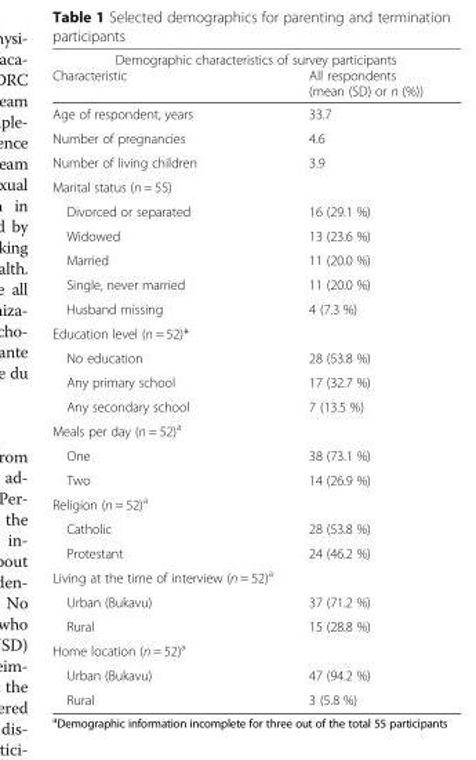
<table><thead><tr><td colspan="2">Demographic characteristics of survey participants</td></tr><tr><td>Characteristic</td><td>All respondents (mean (SD) or n (%))</td></tr></thead><tbody><tr><td>Age of respondent, years</td><td>33.7</td></tr><tr><td>Number of pregnancies</td><td>4.6</td></tr><tr><td>Number of living children</td><td>3.9</td></tr><tr><td colspan="2">Marital status (n = 55)</td></tr><tr><td>Divorced or separated</td><td>16 (29.1 %)</td></tr><tr><td>Widowed</td><td>13 (23.6 %)</td></tr><tr><td>Married</td><td>11 (20.0 %)</td></tr><tr><td>Single, never married</td><td>11 (20.0 %)</td></tr><tr><td>Husband missing</td><td>4 (7.3 %)</td></tr><tr><td colspan="2">Education level (n = 52)*</td></tr><tr><td>No education</td><td>28 (53.8 %)</td></tr><tr><td>Any primary school</td><td>17 (32.7 %)</td></tr><tr><td>Any secondary school</td><td>7 (13.5 %)</td></tr><tr><td colspan="2">Meals per day (n = 52)<sup>a</sup></td></tr><tr><td>One</td><td>38 (73.1 %)</td></tr><tr><td>Two</td><td>14 (26.9 %)</td></tr><tr><td colspan="2">Religion (n = 52)<sup>a</sup></td></tr><tr><td>Catholic</td><td>28 (53.8 %)</td></tr><tr><td>Protestant</td><td>24 (46.2 %)</td></tr><tr><td colspan="2">Living at the time of interview (n = 52)<sup>a</sup></td></tr><tr><td>Urban (Bukavu)</td><td>37 (71.2 %)</td></tr><tr><td>Rural</td><td>15 (28.8 %)</td></tr><tr><td colspan="2">Home location (n = 52)<sup>a</sup></td></tr><tr><td>Urban (Bukavu)</td><td>47 (94.2 %)</td></tr><tr><td>Rural</td><td>3 (5.8 %)</td></tr></tbody></table>